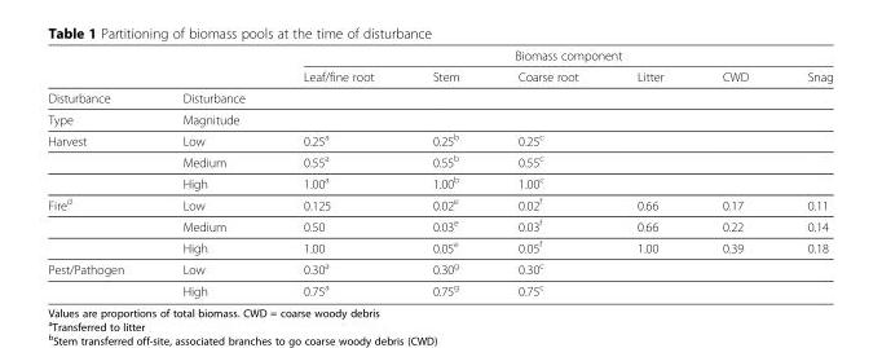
<table><thead><tr><td rowspan="2"></td><td rowspan="2"></td><td colspan="6">Biomass component</td></tr><tr><td>Leaf/fine root</td><td>Stem</td><td>Coarse root</td><td>Litter</td><td>CWD</td><td>Snag</td></tr></thead><tbody><tr><td>Disturbance</td><td>Disturbance</td><td></td><td></td><td></td><td></td><td></td><td></td></tr><tr><td>Type</td><td>Magnitude</td><td></td><td></td><td></td><td></td><td></td><td></td></tr><tr><td rowspan="3">Harvest</td><td>Low</td><td>0.25<sup>a</sup></td><td>0.25<sup>b</sup></td><td>0.25<sup>c</sup></td><td></td><td></td><td></td></tr><tr><td>Medium</td><td>0.55<sup>a</sup></td><td>0.55<sup>b</sup></td><td>0.55<sup>c</sup></td><td></td><td></td><td></td></tr><tr><td>High</td><td>1.00<sup>a</sup></td><td>1.00<sup>b</sup></td><td>1.00<sup>c</sup></td><td></td><td></td><td></td></tr><tr><td rowspan="3">Fire<sup>d</sup></td><td>Low</td><td>0.125</td><td>0.02<sup>e</sup></td><td>0.02<sup>f</sup></td><td>0.66</td><td>0.17</td><td>0.11</td></tr><tr><td>Medium</td><td>0.50</td><td>0.03<sup>e</sup></td><td>0.03<sup>f</sup></td><td>0.66</td><td>0.22</td><td>0.14</td></tr><tr><td>High</td><td>1.00</td><td>0.05<sup>e</sup></td><td>0.05<sup>f</sup></td><td>1.00</td><td>0.39</td><td>0.18</td></tr><tr><td rowspan="2">Pest/Pathogen</td><td>Low</td><td>0.30<sup>a</sup></td><td>0.30<sup>g</sup></td><td>0.30<sup>c</sup></td><td></td><td></td><td></td></tr><tr><td>High</td><td>0.75<sup>a</sup></td><td>0.75<sup>g</sup></td><td>0.75<sup>c</sup></td><td></td><td></td><td></td></tr></tbody></table>